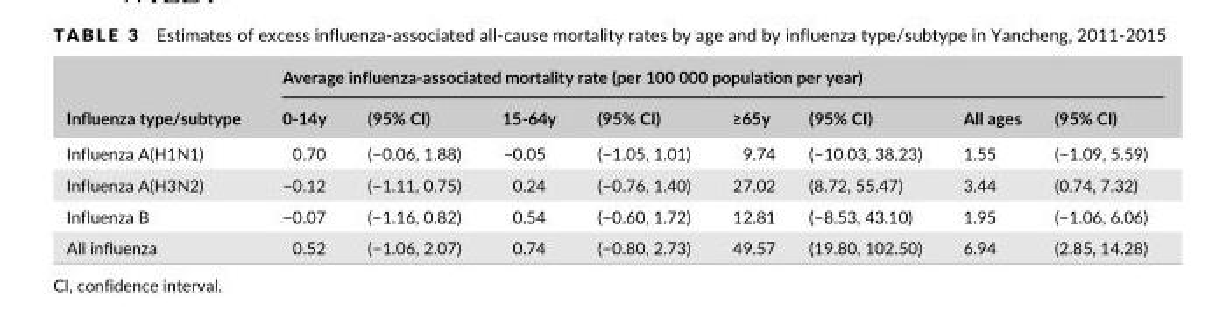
<table><thead><tr><td rowspan="2">Influenza type/subtype</td><td colspan="8">Average influenza- associated mortality rate (per 100 000 population per year)</td></tr><tr><td>0- 14y</td><td>(95% CI)</td><td>15- 64y</td><td>(95% CI)</td><td>≥65y</td><td>(95% CI)</td><td>All ages</td><td>(95% CI)</td></tr></thead><tbody><tr><td>Influenza A(H1N1)</td><td>0.70</td><td>(−0.06, 1.88)</td><td>−0.05</td><td>(−1.05, 1.01)</td><td>9.74</td><td>(−10.03, 38.23)</td><td>1.55</td><td>(−1.09, 5.59)</td></tr><tr><td>Influenza A(H3N2)</td><td>−0.12</td><td>(−1.11, 0.75)</td><td>0.24</td><td>(−0.76, 1.40)</td><td>27.02</td><td>(8.72, 55.47)</td><td>3.44</td><td>(0.74, 7.32)</td></tr><tr><td>Influenza B</td><td>−0.07</td><td>(−1.16, 0.82)</td><td>0.54</td><td>(−0.60, 1.72)</td><td>12.81</td><td>(−8.53, 43.10)</td><td>1.95</td><td>(−1.06, 6.06)</td></tr><tr><td>All influenza</td><td>0.52</td><td>(−1.06, 2.07)</td><td>0.74</td><td>(−0.80, 2.73)</td><td>49.57</td><td>(19.80, 102.50)</td><td>6.94</td><td>(2.85, 14.28)</td></tr></tbody></table>